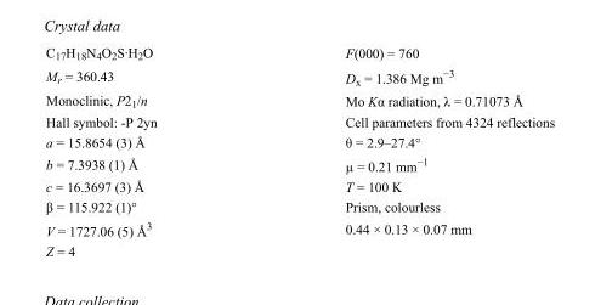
<table><tbody><tr><td>C<sub>17</sub>H<sub>18</sub>N<sub>4</sub>O<sub>2</sub>S·H<sub>2</sub>O</td><td>F(000) = 760</td></tr><tr><td>M<sub>r</sub> = 360.43</td><td>D<sub>x</sub> = 1.386 Mg m<sup>−3</sup></td></tr><tr><td>Monoclinic, P2<sub>1</sub>/n</td><td>Mo Kα radiation, λ = 0.71073 Å</td></tr><tr><td>Hall symbol: -P 2yn</td><td>Cell parameters from 4324 reflections</td></tr><tr><td>a = 15.8654 (3) Å</td><td>θ = 2.9–27.4°</td></tr><tr><td>b = 7.3938 (1) Å</td><td>µ = 0.21 mm<sup>−1</sup></td></tr><tr><td>c = 16.3697 (3) Å</td><td>T = 100 K</td></tr><tr><td>β = 115.922 (1)°</td><td>Prism, colourless</td></tr><tr><td>V = 1727.06 (5) Å<sup>3</sup></td><td>0.44 × 0.13 × 0.07 mm</td></tr><tr><td>Z = 4</td><td></td></tr></tbody></table>